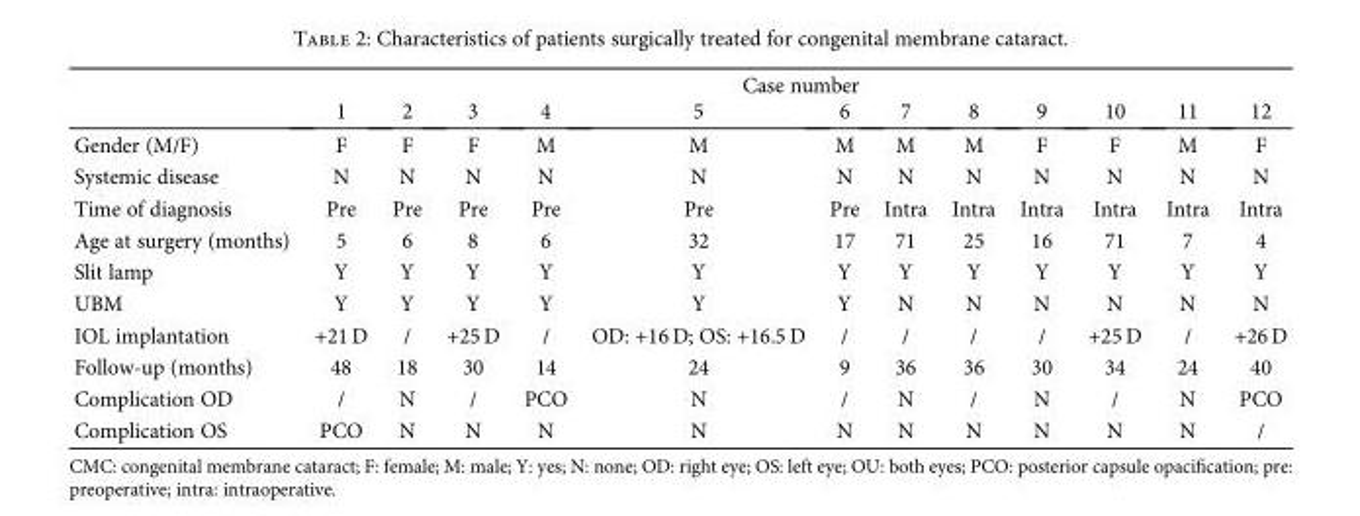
<table><thead><tr><td rowspan="2"></td><td colspan="12">Case number</td></tr><tr><td>1</td><td>2</td><td>3</td><td>4</td><td>5</td><td>6</td><td>7</td><td>8</td><td>9</td><td>10</td><td>11</td><td>12</td></tr></thead><tbody><tr><td>Gender (M/F)</td><td>F</td><td>F</td><td>F</td><td>M</td><td>M</td><td>M</td><td>M</td><td>M</td><td>F</td><td>F</td><td>M</td><td>F</td></tr><tr><td>Systemic disease</td><td>N</td><td>N</td><td>N</td><td>N</td><td>N</td><td>N</td><td>N</td><td>N</td><td>N</td><td>N</td><td>N</td><td>N</td></tr><tr><td>Time of diagnosis</td><td>Pre</td><td>Pre</td><td>Pre</td><td>Pre</td><td>Pre</td><td>Pre</td><td>Intra</td><td>Intra</td><td>Intra</td><td>Intra</td><td>Intra</td><td>Intra</td></tr><tr><td>Age at surgery (months)</td><td>5</td><td>6</td><td>8</td><td>6</td><td>32</td><td>17</td><td>71</td><td>25</td><td>16</td><td>71</td><td>7</td><td>4</td></tr><tr><td>Slit lamp</td><td>Y</td><td>Y</td><td>Y</td><td>Y</td><td>Y</td><td>Y</td><td>Y</td><td>Y</td><td>Y</td><td>Y</td><td>Y</td><td>Y</td></tr><tr><td>UBM</td><td>Y</td><td>Y</td><td>Y</td><td>Y</td><td>Y</td><td>Y</td><td>N</td><td>N</td><td>N</td><td>N</td><td>N</td><td>N</td></tr><tr><td>IOL implantation</td><td>+21 D</td><td>/</td><td>+25 D</td><td>/</td><td>OD: +16 D; OS: +16.5 D</td><td>/</td><td>/</td><td>/</td><td>/</td><td>+25 D</td><td>/</td><td>+26 D</td></tr><tr><td>Follow-up (months)</td><td>48</td><td>18</td><td>30</td><td>14</td><td>24</td><td>9</td><td>36</td><td>36</td><td>30</td><td>34</td><td>24</td><td>40</td></tr><tr><td>Complication OD</td><td>/</td><td>N</td><td>/</td><td>PCO</td><td>N</td><td>/</td><td>N</td><td>/</td><td>N</td><td>/</td><td>N</td><td>PCO</td></tr><tr><td>Complication OS</td><td>PCO</td><td>N</td><td>N</td><td>N</td><td>N</td><td>N</td><td>N</td><td>N</td><td>N</td><td>N</td><td>N</td><td>/</td></tr></tbody></table>